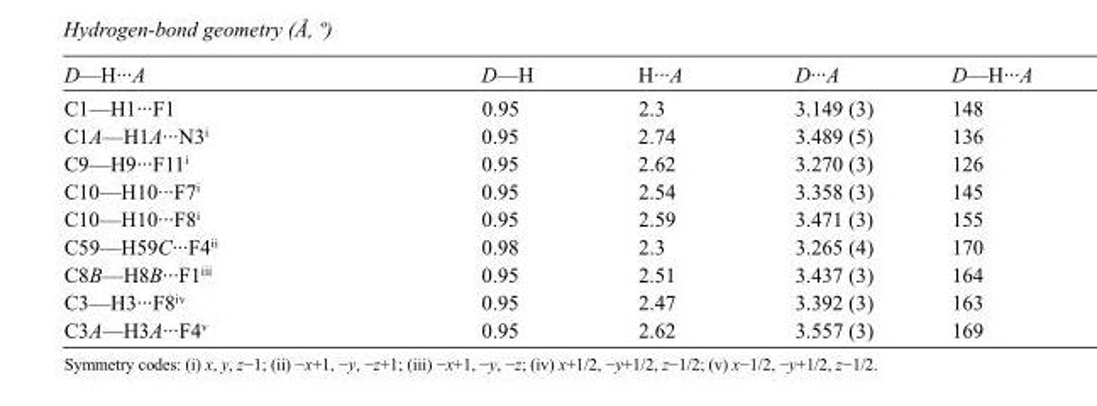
<table><tbody><tr><td>D—H···A</td><td>D—H</td><td>H···A</td><td>D···A</td><td>D—H···A</td></tr><tr><td>C1—H1···F1</td><td>0.95</td><td>2.3</td><td>3.149 (3)</td><td>148</td></tr><tr><td>C1A—H1A···N3<sup>i</sup></td><td>0.95</td><td>2.74</td><td>3.489 (5)</td><td>136</td></tr><tr><td>C9—H9···F11<sup>i</sup></td><td>0.95</td><td>2.62</td><td>3.270 (3)</td><td>126</td></tr><tr><td>C10—H10···F7<sup>i</sup></td><td>0.95</td><td>2.54</td><td>3.358 (3)</td><td>145</td></tr><tr><td>C10—H10···F8<sup>i</sup></td><td>0.95</td><td>2.59</td><td>3.471 (3)</td><td>155</td></tr><tr><td>C59—H59C···F4<sup>ii</sup></td><td>0.98</td><td>2.3</td><td>3.265 (4)</td><td>170</td></tr><tr><td>C8B—H8B···F1<sup>iii</sup></td><td>0.95</td><td>2.51</td><td>3.437 (3)</td><td>164</td></tr><tr><td>C3—H3···F8<sup>iv</sup></td><td>0.95</td><td>2.47</td><td>3.392 (3)</td><td>163</td></tr><tr><td>C3A—H3A···F4<sup>v</sup></td><td>0.95</td><td>2.62</td><td>3.557 (3)</td><td>169</td></tr></tbody></table>